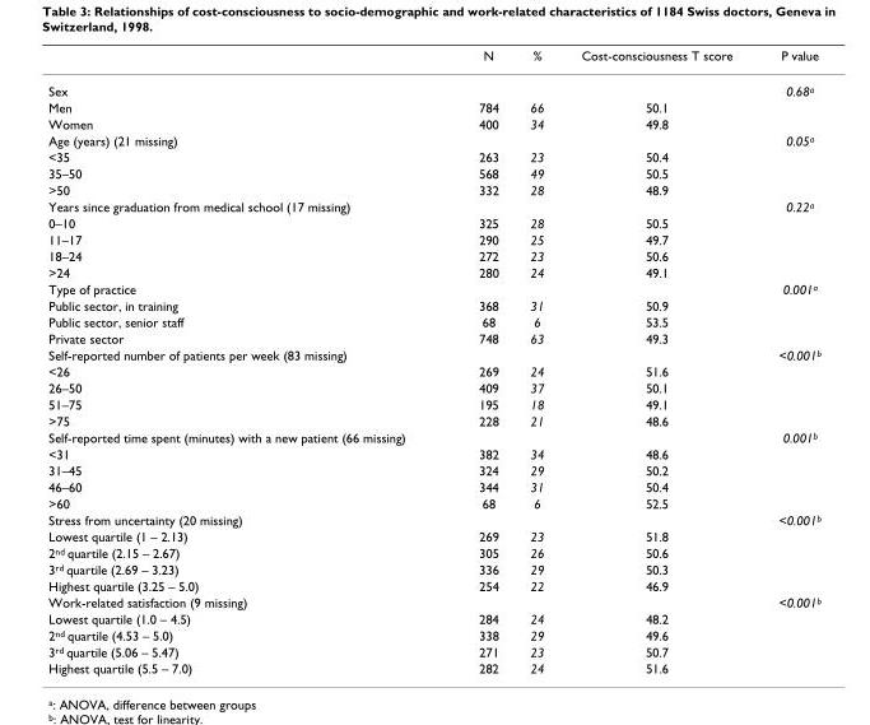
<table><thead><tr><td></td><td>N</td><td>%</td><td>Cost-consciousness T score</td><td>P value</td></tr></thead><tbody><tr><td>Sex</td><td></td><td></td><td></td><td>0.68<sup>a</sup></td></tr><tr><td>Men</td><td>784</td><td>66</td><td>50.1</td><td></td></tr><tr><td>Women</td><td>400</td><td>34</td><td>49.8</td><td></td></tr><tr><td>Age (years) (21 missing)</td><td></td><td></td><td></td><td>0.05<sup>a</sup></td></tr><tr><td>&lt;35</td><td>263</td><td>23</td><td>50.4</td><td></td></tr><tr><td>35–50</td><td>568</td><td>49</td><td>50.5</td><td></td></tr><tr><td>&gt;50</td><td>332</td><td>28</td><td>48.9</td><td></td></tr><tr><td>Years since graduation from medical school (17 missing)</td><td></td><td></td><td></td><td>0.22<sup>a</sup></td></tr><tr><td>0–10</td><td>325</td><td>28</td><td>50.5</td><td></td></tr><tr><td>11–17</td><td>290</td><td>25</td><td>49.7</td><td></td></tr><tr><td>18–24</td><td>272</td><td>23</td><td>50.6</td><td></td></tr><tr><td>&gt;24</td><td>280</td><td>24</td><td>49.1</td><td></td></tr><tr><td>Type of practice</td><td></td><td></td><td></td><td>0.001<sup>a</sup></td></tr><tr><td>Public sector, in training</td><td>368</td><td>31</td><td>50.9</td><td></td></tr><tr><td>Public sector, senior staff</td><td>68</td><td>6</td><td>53.5</td><td></td></tr><tr><td>Private sector</td><td>748</td><td>63</td><td>49.3</td><td></td></tr><tr><td>Self-reported number of patients per week (83 missing)</td><td></td><td></td><td></td><td>&lt;0.001<sup>b</sup></td></tr><tr><td>&lt;26</td><td>269</td><td>24</td><td>51.6</td><td></td></tr><tr><td>26–50</td><td>409</td><td>37</td><td>50.1</td><td></td></tr><tr><td>51–75</td><td>195</td><td>18</td><td>49.1</td><td></td></tr><tr><td>&gt;75</td><td>228</td><td>21</td><td>48.6</td><td></td></tr><tr><td>Self-reported time spent (minutes) with a new patient (66 missing)</td><td></td><td></td><td></td><td>0.001<sup>b</sup></td></tr><tr><td>&lt;31</td><td>382</td><td>34</td><td>48.6</td><td></td></tr><tr><td>31–45</td><td>324</td><td>29</td><td>50.2</td><td></td></tr><tr><td>46–60</td><td>344</td><td>31</td><td>50.4</td><td></td></tr><tr><td>&gt;60</td><td>68</td><td>6</td><td>52.5</td><td></td></tr><tr><td>Stress from uncertainty (20 missing)</td><td></td><td></td><td></td><td>&lt;0.001<sup>b</sup></td></tr><tr><td>Lowest quartile (1 – 2.13)</td><td>269</td><td>23</td><td>51.8</td><td></td></tr><tr><td>2<sup>nd</sup> quartile (2.15 – 2.67)</td><td>305</td><td>26</td><td>50.6</td><td></td></tr><tr><td>3<sup>rd</sup> quartile (2.69 – 3.23)</td><td>336</td><td>29</td><td>50.3</td><td></td></tr><tr><td>Highest quartile (3.25 – 5.0)</td><td>254</td><td>22</td><td>46.9</td><td></td></tr><tr><td>Work-related satisfaction (9 missing)</td><td></td><td></td><td></td><td>&lt;0.001<sup>b</sup></td></tr><tr><td>Lowest quartile (1.0 – 4.5)</td><td>284</td><td>24</td><td>48.2</td><td></td></tr><tr><td>2<sup>nd</sup> quartile (4.53 – 5.0)</td><td>338</td><td>29</td><td>49.6</td><td></td></tr><tr><td>3<sup>rd</sup> quartile (5.06 – 5.47)</td><td>271</td><td>23</td><td>50.7</td><td></td></tr><tr><td>Highest quartile (5.5 – 7.0)</td><td>282</td><td>24</td><td>51.6</td><td></td></tr></tbody></table>